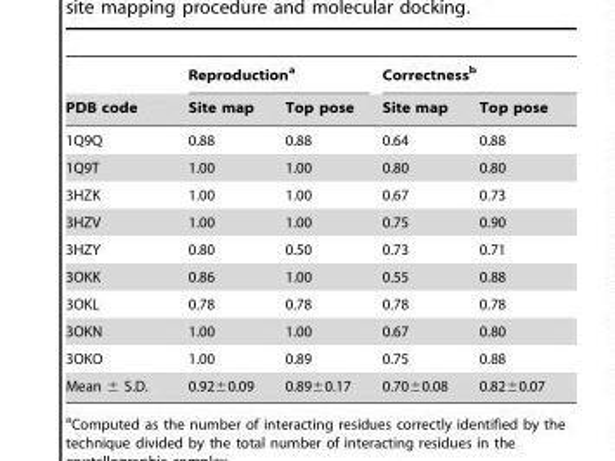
<table><thead><tr><td rowspan="2">PDB code</td><td colspan="2">Reproduction<sup>a</sup></td><td colspan="2">Correctness<sup>b</sup></td></tr><tr><td>Site map</td><td>Top pose</td><td>Site map</td><td>Top pose</td></tr></thead><tbody><tr><td>1Q9Q</td><td>0.88</td><td>0.88</td><td>0.64</td><td>0.88</td></tr><tr><td>1Q9T</td><td>1.00</td><td>1.00</td><td>0.80</td><td>0.80</td></tr><tr><td>3HZK</td><td>1.00</td><td>1.00</td><td>0.67</td><td>0.73</td></tr><tr><td>3HZV</td><td>1.00</td><td>1.00</td><td>0.75</td><td>0.90</td></tr><tr><td>3HZY</td><td>0.80</td><td>0.50</td><td>0.73</td><td>0.71</td></tr><tr><td>3OKK</td><td>0.86</td><td>1.00</td><td>0.55</td><td>0.88</td></tr><tr><td>3OKL</td><td>0.78</td><td>0.78</td><td>0.78</td><td>0.78</td></tr><tr><td>3OKN</td><td>1.00</td><td>1.00</td><td>0.67</td><td>0.80</td></tr><tr><td>3OKO</td><td>1.00</td><td>0.89</td><td>0.75</td><td>0.88</td></tr><tr><td>Mean ± S.D.</td><td>0.92±0.09</td><td>0.89±0.17</td><td>0.70±0.08</td><td>0.82±0.07</td></tr></tbody></table>